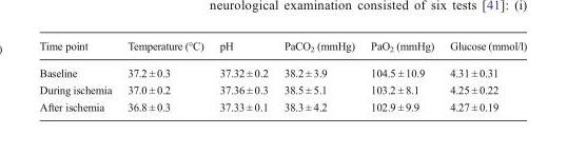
<table><thead><tr><td>Time point</td><td>Temperature (°C)</td><td>pH</td><td>PaCO<sub>2</sub> (mmHg)</td><td>PaO<sub>2</sub> (mmHg)</td><td>Glucose (mmol/l)</td></tr></thead><tbody><tr><td>Baseline</td><td>37.2 ± 0.3</td><td>37.32 ± 0.2</td><td>38.2 ± 3.9</td><td>104.5 ± 10.9</td><td>4.31 ± 0.31</td></tr><tr><td>During ischemia</td><td>37.0 ± 0.2</td><td>37.36 ± 0.3</td><td>38.5 ± 5.1</td><td>103.2 ± 8.1</td><td>4.25 ± 0.22</td></tr><tr><td>After ischemia</td><td>36.8 ± 0.3</td><td>37.33 ± 0.1</td><td>38.3 ± 4.2</td><td>102.9 ± 9.9</td><td>4.27 ± 0.19</td></tr></tbody></table>